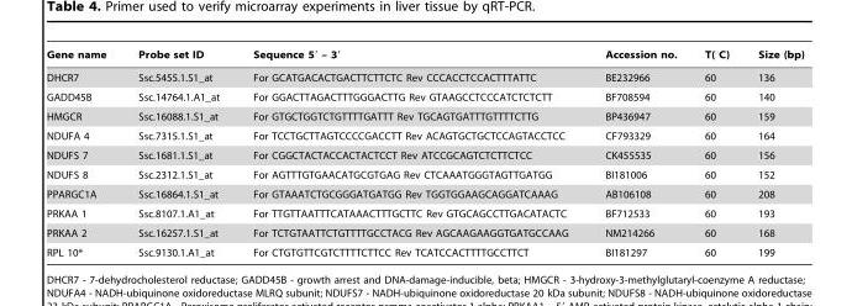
<table><thead><tr><td>Gene name</td><td>Probe set ID</td><td>Sequence 5′ – 3′</td><td>Accession no.</td><td>T(0C)</td><td>Size (bp)</td></tr></thead><tbody><tr><td>DHCR7</td><td>Ssc.5455.1.S1_at</td><td>For GCATGACACTGACTTCTTCTC Rev CCCACCTCCACTTTATTC</td><td>BE232966</td><td>60</td><td>136</td></tr><tr><td>GADD45B</td><td>Ssc.14764.1.A1_at</td><td>For GGACTTAGACTTTGGGACTTG Rev GTAAGCCTCCCATCTCTCTT</td><td>BF708594</td><td>60</td><td>140</td></tr><tr><td>HMGCR</td><td>Ssc.16088.1.S1_at</td><td>For GTGCTGGTCTGTTTTGATTT Rev TGCAGTGATTTGTTTTCTTG</td><td>BP436947</td><td>60</td><td>159</td></tr><tr><td>NDUFA 4</td><td>Ssc.7315.1.S1_at</td><td>For TCCTGCTTAGTCCCCGACCTT Rev ACAGTGCTGCTCCAGTACCTCC</td><td>CF793329</td><td>60</td><td>164</td></tr><tr><td>NDUFS 7</td><td>Ssc.1681.1.S1_at</td><td>For CGGCTACTACCACTACTCCT Rev ATCCGCAGTCTCTTCTCC</td><td>CK455535</td><td>60</td><td>156</td></tr><tr><td>NDUFS 8</td><td>Ssc.2312.1.S1_at</td><td>For AGTTTGTGAACATGCGTGAG Rev CTCAAATGGGTAGTTGATGG</td><td>BI181006</td><td>60</td><td>152</td></tr><tr><td>PPARGC1A</td><td>Ssc.16864.1.S1_at</td><td>For GTAAATCTGCGGGATGATGG Rev TGGTGGAAGCAGGATCAAAG</td><td>AB106108</td><td>60</td><td>208</td></tr><tr><td>PRKAA 1</td><td>Ssc.8107.1.A1_at</td><td>For TTGTTAATTTCATAAACTTTGCTTC Rev GTGCAGCCTTGACATACTC</td><td>BF712533</td><td>60</td><td>193</td></tr><tr><td>PRKAA 2</td><td>Ssc.16257.1.S1_at</td><td>For TCTGTAATTCTGTTTTGCCTACG Rev AGCAAGAAGGTGATGCCAAG</td><td>NM214266</td><td>60</td><td>168</td></tr><tr><td>RPL 10*</td><td>Ssc.9130.1.A1_at</td><td>For CTGTGTTCGTCTTTTCTTCC Rev TCATCCACTTTTGCCTTCT</td><td>BI181297</td><td>60</td><td>199</td></tr></tbody></table>